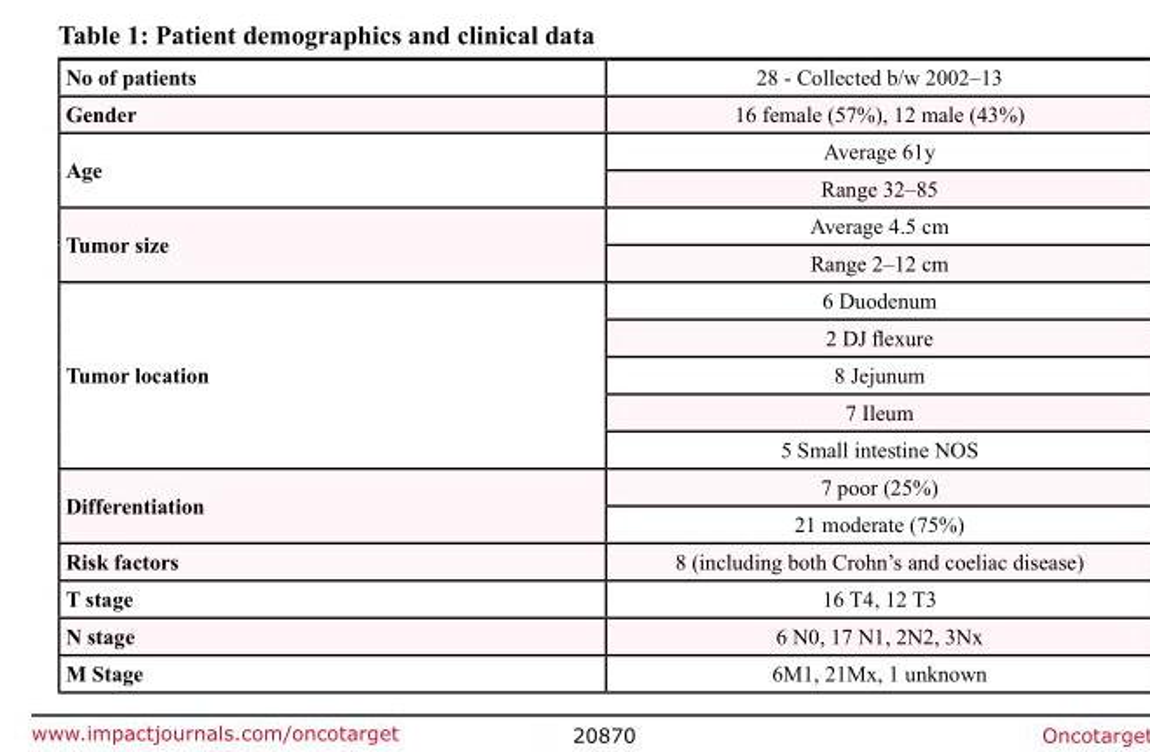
<table><tbody><tr><td>No of patients</td><td>28 - Collected b/w 2002–13</td></tr><tr><td>Gender</td><td>16 female (57%), 12 male (43%)</td></tr><tr><td rowspan="2">Age</td><td>Average 61y</td></tr><tr><td>Range 32–85</td></tr><tr><td rowspan="2">Tumor size</td><td>Average 4.5 cm</td></tr><tr><td>Range 2–12 cm</td></tr><tr><td rowspan="5">Tumor location</td><td>6 Duodenum</td></tr><tr><td>2 DJ flexure</td></tr><tr><td>8 Jejunum</td></tr><tr><td>7 Ileum</td></tr><tr><td>5 Small intestine NOS</td></tr><tr><td rowspan="2">Differentiation</td><td>7 poor (25%)</td></tr><tr><td>21 moderate (75%)</td></tr><tr><td>Risk factors</td><td>8 (including both Crohn’s and coeliac disease)</td></tr><tr><td>T stage</td><td>16 T4, 12 T3</td></tr><tr><td>N stage</td><td>6 N0, 17 N1, 2N2, 3Nx</td></tr><tr><td>M Stage</td><td>6M1, 21Mx, 1 unknown</td></tr></tbody></table>